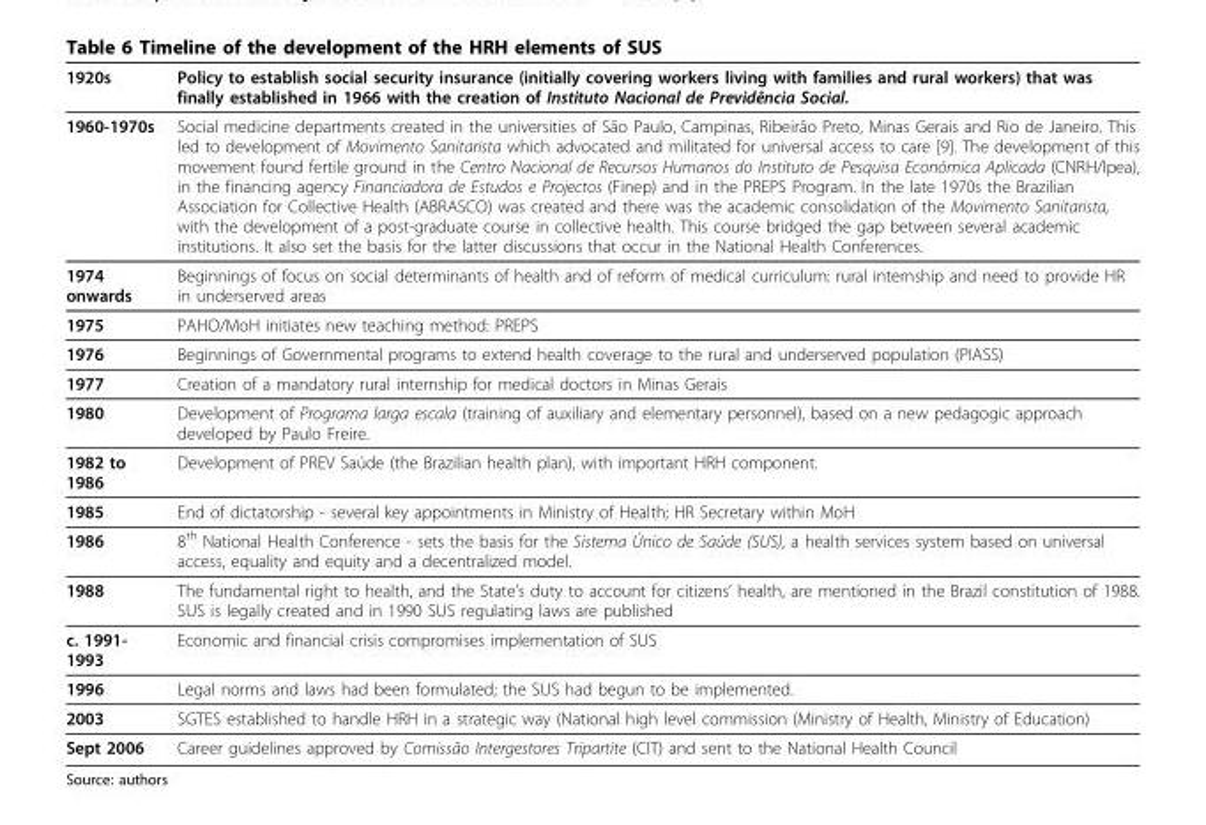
<table><thead><tr><td>1920s</td><td>Policy to establish social security insurance (initially covering workers living with families and rural workers) that was finally established in 1966 with the creation of Instituto Nacional de Previdência Social.</td></tr></thead><tbody><tr><td>1960-1970s</td><td>Social medicine departments created in the universities of São Paulo, Campinas, Ribeirão Preto, Minas Gerais and Rio de Janeiro. This led to development of Movimento Sanitarista which advocated and militated for universal access to care [9]. The development of this movement found fertile ground in the Centro Nacional de Recursos Humanos do Instituto de Pesquisa Económica Aplicada (CNRH/Ipea), in the financing agency Financiadora de Estudos e Projectos (Finep) and in the PREPS Program. In the late 1970s the Brazilian Association for Collective Health (ABRASCO) was created and there was the academic consolidation of the Movimento Sanitarista, with the development of a post-graduate course in collective health. This course bridged the gap between several academic institutions. It also set the basis for the latter discussions that occur in the National Health Conferences.</td></tr><tr><td>1974 onwards</td><td>Beginnings of focus on social determinants of health and of reform of medical curriculum: rural internship and need to provide HR in underserved areas</td></tr><tr><td>1975</td><td>PAHO/MoH initiates new teaching method: PREPS</td></tr><tr><td>1976</td><td>Beginnings of Governmental programs to extend health coverage to the rural and underserved population (PIASS)</td></tr><tr><td>1977</td><td>Creation of a mandatory rural internship for medical doctors in Minas Gerais</td></tr><tr><td>1980</td><td>Development of Programa larga escala (training of auxiliary and elementary personnel), based on a new pedagogic approach developed by Paulo Freire.</td></tr><tr><td>1982 to 1986</td><td>Development of PREV Saúde (the Brazilian health plan), with important HRH component.</td></tr><tr><td>1985</td><td>End of dictatorship - several key appointments in Ministry of Health; HR Secretary within MoH</td></tr><tr><td>1986</td><td>8<sup>th</sup> National Health Conference - sets the basis for the Sistema Único de Saúde (SUS), a health services system based on universal access, equality and equity and a decentralized model.</td></tr><tr><td>1988</td><td>The fundamental right to health, and the State’s duty to account for citizens’ health, are mentioned in the Brazil constitution of 1988. SUS is legally created and in 1990 SUS regulating laws are published</td></tr><tr><td>c. 1991- 1993</td><td>Economic and financial crisis compromises implementation of SUS</td></tr><tr><td>1996</td><td>Legal norms and laws had been formulated; the SUS had begun to be implemented.</td></tr><tr><td>2003</td><td>SGTES established to handle HRH in a strategic way (National high level commission (Ministry of Health, Ministry of Education)</td></tr><tr><td>Sept 2006</td><td>Career guidelines approved by Comissão Intergestores Tripartite (CIT) and sent to the National Health Council</td></tr></tbody></table>